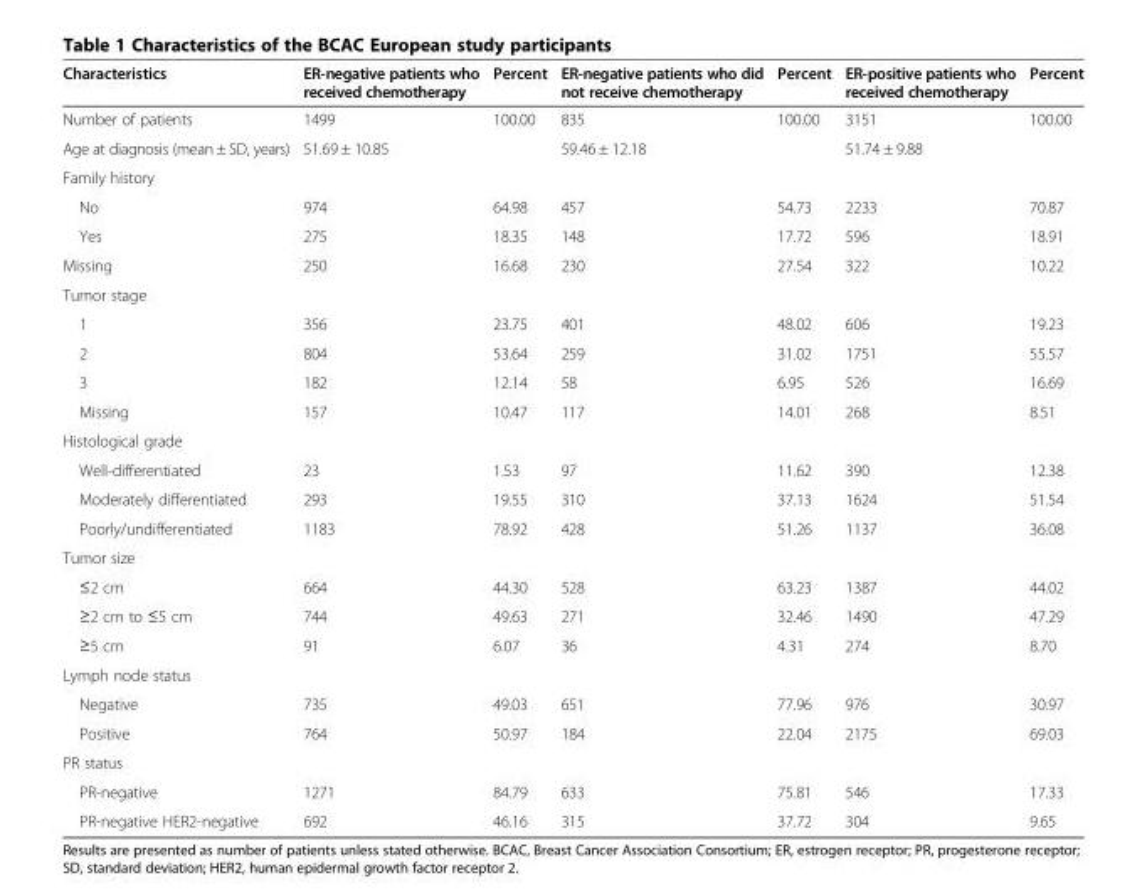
<table><thead><tr><td>Characteristics</td><td>ER-negative patients who received chemotherapy</td><td>Percent</td><td>ER-negative patients who did not receive chemotherapy</td><td>Percent</td><td>ER-positive patients who received chemotherapy</td><td>Percent</td></tr></thead><tbody><tr><td>Number of patients</td><td>1499</td><td>100.00</td><td>835</td><td>100.00</td><td>3151</td><td>100.00</td></tr><tr><td>Age at diagnosis (mean ± SD, years)</td><td colspan="2">51.69 ± 10.85</td><td colspan="2">59.46 ± 12.18</td><td colspan="2">51.74 ± 9.88</td></tr><tr><td colspan="7">Family history</td></tr><tr><td>No</td><td>974</td><td>64.98</td><td>457</td><td>54.73</td><td>2233</td><td>70.87</td></tr><tr><td>Yes</td><td>275</td><td>18.35</td><td>148</td><td>17.72</td><td>596</td><td>18.91</td></tr><tr><td>Missing</td><td>250</td><td>16.68</td><td>230</td><td>27.54</td><td>322</td><td>10.22</td></tr><tr><td colspan="7">Tumor stage</td></tr><tr><td>1</td><td>356</td><td>23.75</td><td>401</td><td>48.02</td><td>606</td><td>19.23</td></tr><tr><td>2</td><td>804</td><td>53.64</td><td>259</td><td>31.02</td><td>1751</td><td>55.57</td></tr><tr><td>3</td><td>182</td><td>12.14</td><td>58</td><td>6.95</td><td>526</td><td>16.69</td></tr><tr><td>Missing</td><td>157</td><td>10.47</td><td>117</td><td>14.01</td><td>268</td><td>8.51</td></tr><tr><td colspan="7">Histological grade</td></tr><tr><td>Well-differentiated</td><td>23</td><td>1.53</td><td>97</td><td>11.62</td><td>390</td><td>12.38</td></tr><tr><td>Moderately differentiated</td><td>293</td><td>19.55</td><td>310</td><td>37.13</td><td>1624</td><td>51.54</td></tr><tr><td>Poorly/undifferentiated</td><td>1183</td><td>78.92</td><td>428</td><td>51.26</td><td>1137</td><td>36.08</td></tr><tr><td colspan="7">Tumor size</td></tr><tr><td>≤2 cm</td><td>664</td><td>44.30</td><td>528</td><td>63.23</td><td>1387</td><td>44.02</td></tr><tr><td>≥2 cm to ≤5 cm</td><td>744</td><td>49.63</td><td>271</td><td>32.46</td><td>1490</td><td>47.29</td></tr><tr><td>≥5 cm</td><td>91</td><td>6.07</td><td>36</td><td>4.31</td><td>274</td><td>8.70</td></tr><tr><td colspan="7">Lymph node status</td></tr><tr><td>Negative</td><td>735</td><td>49.03</td><td>651</td><td>77.96</td><td>976</td><td>30.97</td></tr><tr><td>Positive</td><td>764</td><td>50.97</td><td>184</td><td>22.04</td><td>2175</td><td>69.03</td></tr><tr><td colspan="7">PR status</td></tr><tr><td>PR-negative</td><td>1271</td><td>84.79</td><td>633</td><td>75.81</td><td>546</td><td>17.33</td></tr><tr><td>PR-negative HER2-negative</td><td>692</td><td>46.16</td><td>315</td><td>37.72</td><td>304</td><td>9.65</td></tr></tbody></table>